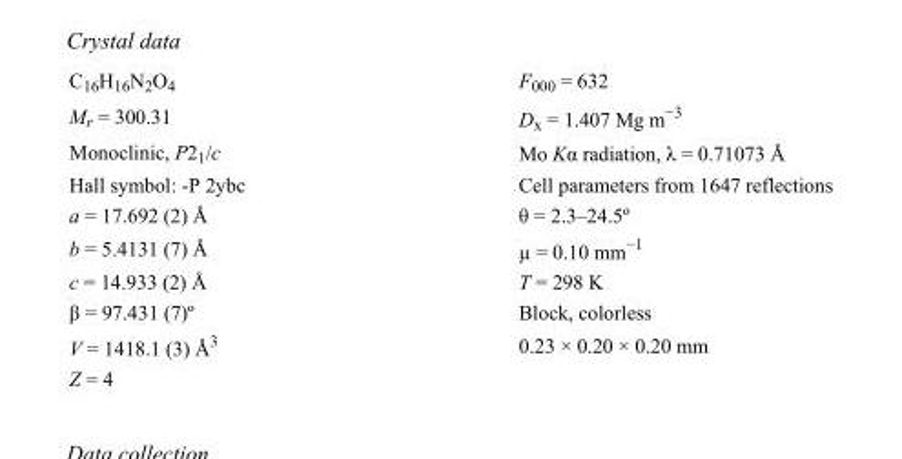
<table><tbody><tr><td>C<sub>16</sub>H<sub>16</sub>N<sub>2</sub>O<sub>4</sub></td><td>F000 = 632</td></tr><tr><td>M<sub>r</sub> = 300.31</td><td>D<sub>x</sub> = 1.407 Mg m<sup>−3</sup></td></tr><tr><td>Monoclinic, P2<sub>1</sub>/c</td><td>Mo Kα radiation, λ = 0.71073 Å</td></tr><tr><td>Hall symbol: -P 2ybc</td><td>Cell parameters from 1647 reflections</td></tr><tr><td>a = 17.692 (2) Å</td><td>θ = 2.3–24.5º</td></tr><tr><td>b = 5.4131 (7) Å</td><td>µ = 0.10 mm<sup>−1</sup></td></tr><tr><td>c = 14.933 (2) Å</td><td>T = 298 K</td></tr><tr><td>β = 97.431 (7)º</td><td>Block, colorless</td></tr><tr><td>V = 1418.1 (3) Å<sup>3</sup></td><td>0.23 × 0.20 × 0.20 mm</td></tr><tr><td>Z = 4</td><td></td></tr></tbody></table>